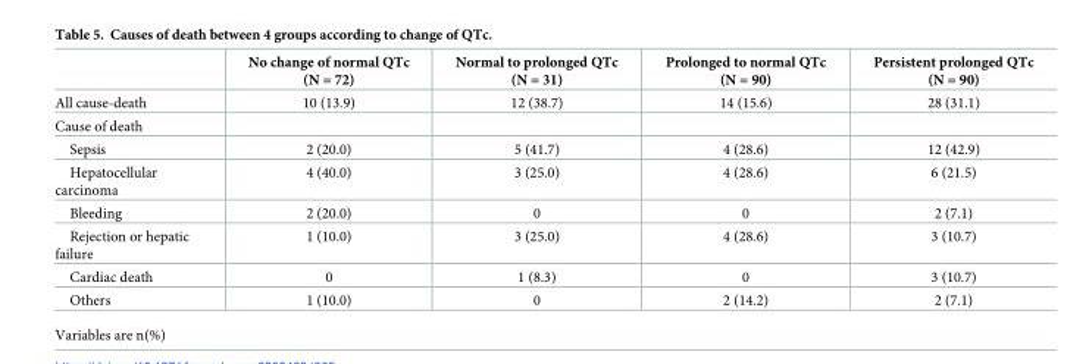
<table><thead><tr><td></td><td>No change of normal QTc (N = 72)</td><td>Normal to prolonged QTc (N = 31)</td><td>Prolonged to normal QTc (N = 90)</td><td>Persistent prolonged QTc (N = 90)</td></tr></thead><tbody><tr><td>All cause-death</td><td>10 (13.9)</td><td>12 (38.7)</td><td>14 (15.6)</td><td>28 (31.1)</td></tr><tr><td colspan="5">Cause of death</td></tr><tr><td>Sepsis</td><td>2 (20.0)</td><td>5 (41.7)</td><td>4 (28.6)</td><td>12 (42.9)</td></tr><tr><td>Hepatocellular carcinoma</td><td>4 (40.0)</td><td>3 (25.0)</td><td>4 (28.6)</td><td>6 (21.5)</td></tr><tr><td>Bleeding</td><td>2 (20.0)</td><td>0</td><td>0</td><td>2 (7.1)</td></tr><tr><td>Rejection or hepatic failure</td><td>1 (10.0)</td><td>3 (25.0)</td><td>4 (28.6)</td><td>3 (10.7)</td></tr><tr><td>Cardiac death</td><td>0</td><td>1 (8.3)</td><td>0</td><td>3 (10.7)</td></tr><tr><td>Others</td><td>1 (10.0)</td><td>0</td><td>2 (14.2)</td><td>2 (7.1)</td></tr></tbody></table>